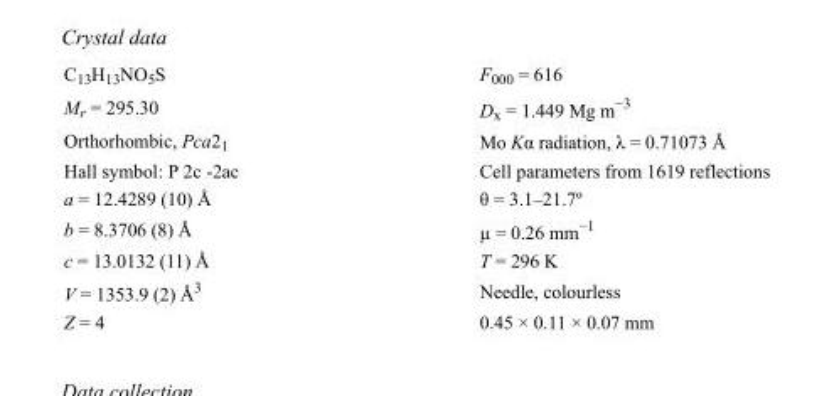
<table><tbody><tr><td>C<sub>13</sub>H<sub>13</sub>NO<sub>5</sub>S</td><td>F000 = 616</td></tr><tr><td>M<sub>r</sub> = 295.30</td><td>D<sub>x</sub> = 1.449 Mg m<sup>−3</sup></td></tr><tr><td>Orthorhombic, Pca2<sub>1</sub></td><td>Mo Kα radiation, λ = 0.71073 Å</td></tr><tr><td>Hall symbol: P 2c -2ac</td><td>Cell parameters from 1619 reflections</td></tr><tr><td>a = 12.4289 (10) Å</td><td>θ = 3.1–21.7º</td></tr><tr><td>b = 8.3706 (8) Å</td><td>µ = 0.26 mm<sup>−1</sup></td></tr><tr><td>c = 13.0132 (11) Å</td><td>T = 296 K</td></tr><tr><td>V = 1353.9 (2) Å<sup>3</sup></td><td>Needle, colourless</td></tr><tr><td>Z = 4</td><td>0.45 × 0.11 × 0.07 mm</td></tr></tbody></table>